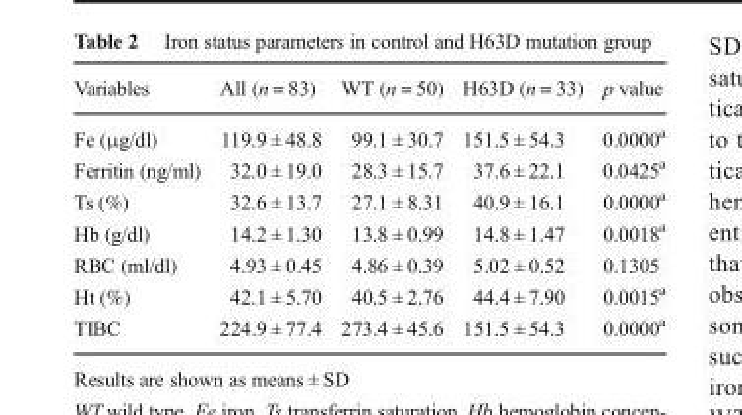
<table><thead><tr><td>Variables</td><td>All (n = 83)</td><td>WT (n = 50)</td><td>H63D (n = 33)</td><td>p value</td></tr></thead><tbody><tr><td>Fe (μg/dl)</td><td>119.9 ± 48.8</td><td>99.1 ± 30.7</td><td>151.5 ± 54.3</td><td>0.0000<sup>a</sup></td></tr><tr><td>Ferritin (ng/ml)</td><td>32.0 ± 19.0</td><td>28.3 ± 15.7</td><td>37.6 ± 22.1</td><td>0.0425<sup>a</sup></td></tr><tr><td>Ts (%)</td><td>32.6 ± 13.7</td><td>27.1 ± 8.31</td><td>40.9 ± 16.1</td><td>0.0000<sup>a</sup></td></tr><tr><td>Hb (g/dl)</td><td>14.2 ± 1.30</td><td>13.8 ± 0.99</td><td>14.8 ± 1.47</td><td>0.0018<sup>a</sup></td></tr><tr><td>RBC (ml/dl)</td><td>4.93 ± 0.45</td><td>4.86 ± 0.39</td><td>5.02 ± 0.52</td><td>0.1305</td></tr><tr><td>Ht (%)</td><td>42.1 ± 5.70</td><td>40.5 ± 2.76</td><td>44.4 ± 7.90</td><td>0.0015<sup>a</sup></td></tr><tr><td>TIBC</td><td>224.9 ± 77.4</td><td>273.4 ± 45.6</td><td>151.5 ± 54.3</td><td>0.0000<sup>a</sup></td></tr></tbody></table>